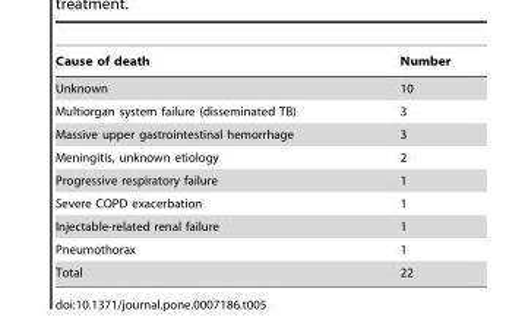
<table><thead><tr><td>Cause of death</td><td>Number</td></tr></thead><tbody><tr><td>Unknown</td><td>10</td></tr><tr><td>Multiorgan system failure (disseminated TB)</td><td>3</td></tr><tr><td>Massive upper gastrointestinal hemorrhage</td><td>3</td></tr><tr><td>Meningitis, unknown etiology</td><td>2</td></tr><tr><td>Progressive respiratory failure</td><td>1</td></tr><tr><td>Severe COPD exacerbation</td><td>1</td></tr><tr><td>Injectable-related renal failure</td><td>1</td></tr><tr><td>Pneumothorax</td><td>1</td></tr><tr><td>Total</td><td>22</td></tr></tbody></table>